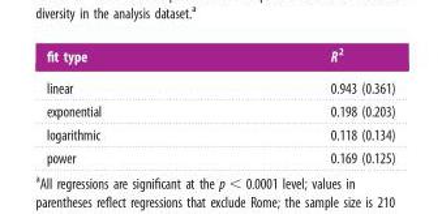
<table><thead><tr><td>fit type</td><td>R<sup>2</sup></td></tr></thead><tbody><tr><td>linear</td><td>0.943 (0.361)</td></tr><tr><td>exponential</td><td>0.198 (0.203)</td></tr><tr><td>logarithmic</td><td>0.118 (0.134)</td></tr><tr><td>power</td><td>0.169 (0.125)</td></tr></tbody></table>